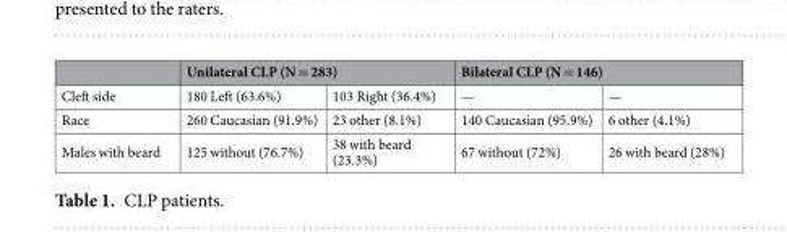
<table><thead><tr><td rowspan="2">Cleft side</td><td colspan="2">Unilateral CLP (N = 283)</td><td colspan="2">Bilateral CLP (N = 146)</td></tr><tr><td>180 Left (63.6%)</td><td>103 Right (36.4%)</td><td>—</td><td>—</td></tr></thead><tbody><tr><td>Race</td><td>260 Caucasian (91.9%)</td><td>23 other (8.1%)</td><td>140 Caucasian (95.9%)</td><td>6 other (4.1%)</td></tr><tr><td>Males with beard</td><td>125 without (76.7%)</td><td>38 with beard (23.3%)</td><td>67 without (72%)</td><td>26 with beard (28%)</td></tr></tbody></table>